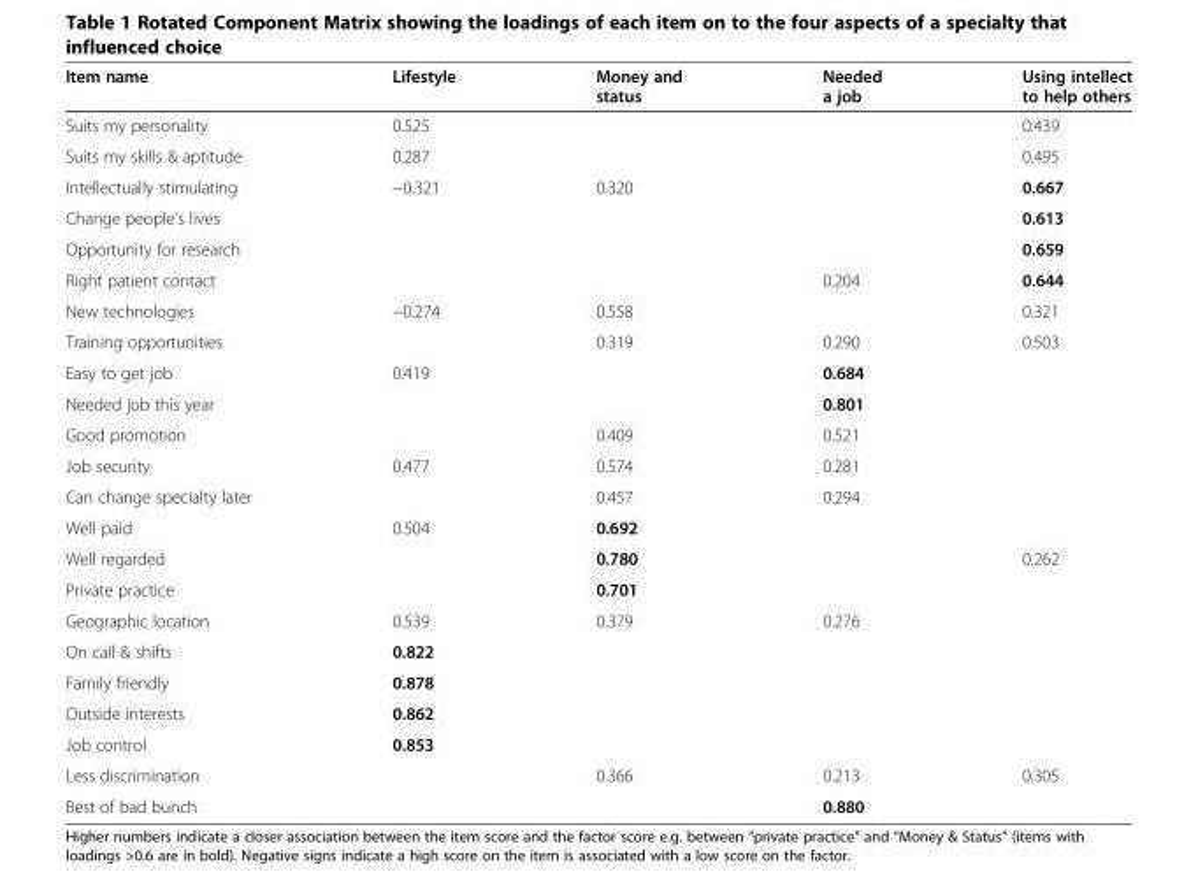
<table><thead><tr><td>Item name</td><td>Lifestyle</td><td>Money and status</td><td>Needed a job</td><td>Using intellect to help others</td></tr></thead><tbody><tr><td>Suits my personality</td><td>0.525</td><td></td><td></td><td>0.439</td></tr><tr><td>Suits my skills &amp; aptitude</td><td>0.287</td><td></td><td></td><td>0.495</td></tr><tr><td>Intellectually stimulating</td><td>−0.321</td><td>0.320</td><td></td><td>0.667</td></tr><tr><td>Change people’s lives</td><td></td><td></td><td></td><td>0.613</td></tr><tr><td>Opportunity for research</td><td></td><td></td><td></td><td>0.659</td></tr><tr><td>Right patient contact</td><td></td><td></td><td>0.204</td><td>0.644</td></tr><tr><td>New technologies</td><td>−0.274</td><td>0.558</td><td></td><td>0.321</td></tr><tr><td>Training opportunities</td><td></td><td>0.319</td><td>0.290</td><td>0.503</td></tr><tr><td>Easy to get job</td><td>0.419</td><td></td><td>0.684</td><td></td></tr><tr><td>Needed job this year</td><td></td><td></td><td>0.801</td><td></td></tr><tr><td>Good promotion</td><td></td><td>0.409</td><td>0.521</td><td></td></tr><tr><td>Job security</td><td>0.477</td><td>0.574</td><td>0.281</td><td></td></tr><tr><td>Can change specialty later</td><td></td><td>0.457</td><td>0.294</td><td></td></tr><tr><td>Well paid</td><td>0.504</td><td>0.692</td><td></td><td></td></tr><tr><td>Well regarded</td><td></td><td>0.780</td><td></td><td>0.262</td></tr><tr><td>Private practice</td><td></td><td>0.701</td><td></td><td></td></tr><tr><td>Geographic location</td><td>0.539</td><td>0.379</td><td>0.276</td><td></td></tr><tr><td>On call &amp; shifts</td><td>0.822</td><td></td><td></td><td></td></tr><tr><td>Family friendly</td><td>0.878</td><td></td><td></td><td></td></tr><tr><td>Outside interests</td><td>0.862</td><td></td><td></td><td></td></tr><tr><td>Job control</td><td>0.853</td><td></td><td></td><td></td></tr><tr><td>Less discrimination</td><td></td><td>0.366</td><td>0.213</td><td>0.305</td></tr><tr><td>Best of bad bunch</td><td></td><td></td><td>0.880</td><td></td></tr></tbody></table>